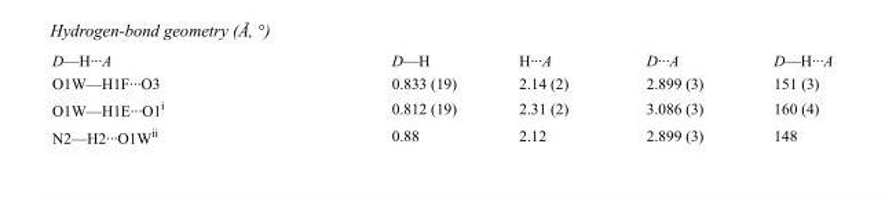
<table><tbody><tr><td>D—H···A</td><td>D—H</td><td>H···A</td><td>D···A</td><td>D—H···A</td></tr><tr><td>O1W—H1F···O3</td><td>0.833 (19)</td><td>2.14 (2)</td><td>2.899 (3)</td><td>151 (3)</td></tr><tr><td>O1W—H1E···O1<sup>i</sup></td><td>0.812 (19)</td><td>2.31 (2)</td><td>3.086 (3)</td><td>160 (4)</td></tr><tr><td>N2—H2···O1W<sup>ii</sup></td><td>0.88</td><td>2.12</td><td>2.899 (3)</td><td>148</td></tr></tbody></table>